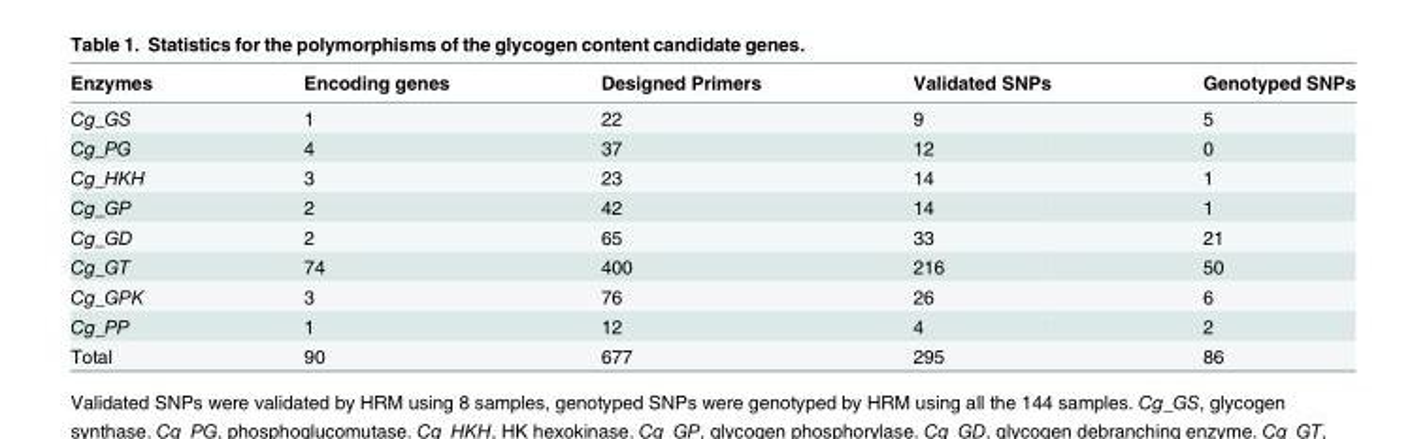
<table><thead><tr><td>Enzymes</td><td>Encoding genes</td><td>Designed Primers</td><td>Validated SNPs</td><td>Genotyped SNPs</td></tr></thead><tbody><tr><td>Cg_GS</td><td>1</td><td>22</td><td>9</td><td>5</td></tr><tr><td>Cg_PG</td><td>4</td><td>37</td><td>12</td><td>0</td></tr><tr><td>Cg_HKH</td><td>3</td><td>23</td><td>14</td><td>1</td></tr><tr><td>Cg_GP</td><td>2</td><td>42</td><td>14</td><td>1</td></tr><tr><td>Cg_GD</td><td>2</td><td>65</td><td>33</td><td>21</td></tr><tr><td>Cg_GT</td><td>74</td><td>400</td><td>216</td><td>50</td></tr><tr><td>Cg_GPK</td><td>3</td><td>76</td><td>26</td><td>6</td></tr><tr><td>Cg_PP</td><td>1</td><td>12</td><td>4</td><td>2</td></tr><tr><td>Total</td><td>90</td><td>677</td><td>295</td><td>86</td></tr></tbody></table>